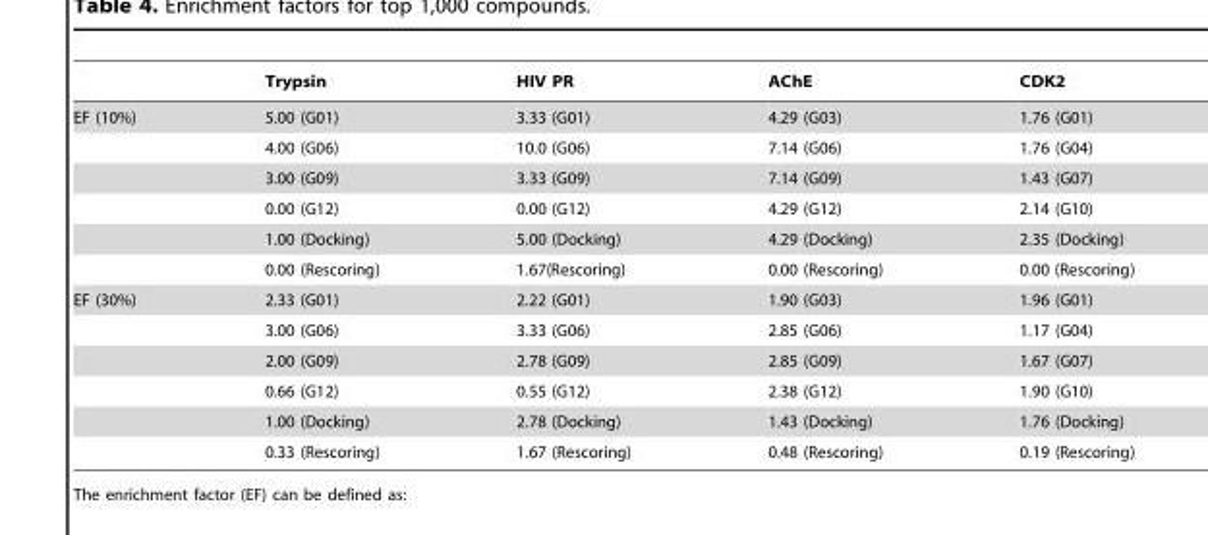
<table><thead><tr><td></td><td>Trypsin</td><td>HIV PR</td><td>AChE</td><td>CDK2</td></tr></thead><tbody><tr><td rowspan="6">EF (10%)</td><td>5.00 (G01)</td><td>3.33 (G01)</td><td>4.29 (G03)</td><td>1.76 (G01)</td></tr><tr><td>4.00 (G06)</td><td>10.0 (G06)</td><td>7.14 (G06)</td><td>1.76 (G04)</td></tr><tr><td>3.00 (G09)</td><td>3.33 (G09)</td><td>7.14 (G09)</td><td>1.43 (G07)</td></tr><tr><td>0.00 (G12)</td><td>0.00 (G12)</td><td>4.29 (G12)</td><td>2.14 (G10)</td></tr><tr><td>1.00 (Docking)</td><td>5.00 (Docking)</td><td>4.29 (Docking)</td><td>2.35 (Docking)</td></tr><tr><td>0.00 (Rescoring)</td><td>1.67(Rescoring)</td><td>0.00 (Rescoring)</td><td>0.00 (Rescoring)</td></tr><tr><td rowspan="6">EF (30%)</td><td>2.33 (G01)</td><td>2.22 (G01)</td><td>1.90 (G03)</td><td>1.96 (G01)</td></tr><tr><td>3.00 (G06)</td><td>3.33 (G06)</td><td>2.85 (G06)</td><td>1.17 (G04)</td></tr><tr><td>2.00 (G09)</td><td>2.78 (G09)</td><td>2.85 (G09)</td><td>1.67 (G07)</td></tr><tr><td>0.66 (G12)</td><td>0.55 (G12)</td><td>2.38 (G12)</td><td>1.90 (G10)</td></tr><tr><td>1.00 (Docking)</td><td>2.78 (Docking)</td><td>1.43 (Docking)</td><td>1.76 (Docking)</td></tr><tr><td>0.33 (Rescoring)</td><td>1.67 (Rescoring)</td><td>0.48 (Rescoring)</td><td>0.19 (Rescoring)</td></tr></tbody></table>